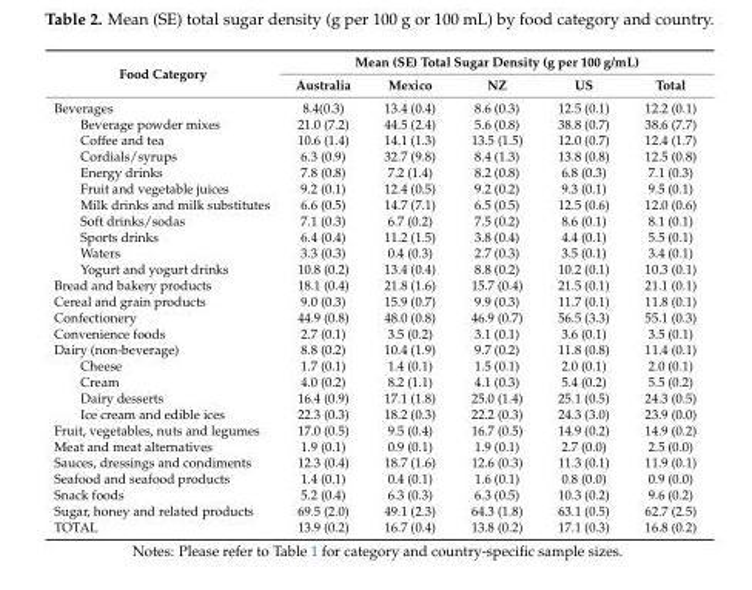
<table><thead><tr><td rowspan="2">Food Category</td><td colspan="5">Mean (SE) Total Sugar Density (g per 100 g/mL)</td></tr><tr><td>Australia</td><td>Mexico</td><td>NZ</td><td>US</td><td>Total</td></tr></thead><tbody><tr><td>Beverages</td><td>8.4(0.3)</td><td>13.4 (0.4)</td><td>8.6 (0.3)</td><td>12.5 (0.1)</td><td>12.2 (0.1)</td></tr><tr><td>Beverage powder mixes</td><td>21.0 (7.2)</td><td>44.5 (2.4)</td><td>5.6 (0.8)</td><td>38.8 (0.7)</td><td>38.6 (7.7)</td></tr><tr><td>Coffee and tea</td><td>10.6 (1.4)</td><td>14.1 (1.3)</td><td>13.5 (1.5)</td><td>12.0 (0.7)</td><td>12.4 (1.7)</td></tr><tr><td>Cordials/syrups</td><td>6.3 (0.9)</td><td>32.7 (9.8)</td><td>8.4 (1.3)</td><td>13.8 (0.8)</td><td>12.5 (0.8)</td></tr><tr><td>Energy drinks</td><td>7.8 (0.8)</td><td>7.2 (1.4)</td><td>8.2 (0.8)</td><td>6.8 (0.3)</td><td>7.1 (0.3)</td></tr><tr><td>Fruit and vegetable juices</td><td>9.2 (0.1)</td><td>12.4 (0.5)</td><td>9.2 (0.2)</td><td>9.3 (0.1)</td><td>9.5 (0.1)</td></tr><tr><td>Milk drinks and milk substitutes</td><td>6.6 (0.5)</td><td>14.7 (7.1)</td><td>6.5 (0.5)</td><td>12.5 (0.6)</td><td>12.0 (0.6)</td></tr><tr><td>Soft drinks/sodas</td><td>7.1 (0.3)</td><td>6.7 (0.2)</td><td>7.5 (0.2)</td><td>8.6 (0.1)</td><td>8.1 (0.1)</td></tr><tr><td>Sports drinks</td><td>6.4 (0.4)</td><td>11.2 (1.5)</td><td>3.8 (0.4)</td><td>4.4 (0.1)</td><td>5.5 (0.1)</td></tr><tr><td>Waters</td><td>3.3 (0.3)</td><td>0.4 (0.3)</td><td>2.7 (0.3)</td><td>3.5 (0.1)</td><td>3.4 (0.1)</td></tr><tr><td>Yogurt and yogurt drinks</td><td>10.8 (0.2)</td><td>13.4 (0.4)</td><td>8.8 (0.2)</td><td>10.2 (0.1)</td><td>10.3 (0.1)</td></tr><tr><td>Bread and bakery products</td><td>18.1 (0.4)</td><td>21.8 (1.6)</td><td>15.7 (0.4)</td><td>21.5 (0.1)</td><td>21.1 (0.1)</td></tr><tr><td>Cereal and grain products</td><td>9.0 (0.3)</td><td>15.9 (0.7)</td><td>9.9 (0.3)</td><td>11.7 (0.1)</td><td>11.8 (0.1)</td></tr><tr><td>Confectionery</td><td>44.9 (0.8)</td><td>48.0 (0.8)</td><td>46.9 (0.7)</td><td>56.5 (3.3)</td><td>55.1 (0.3)</td></tr><tr><td>Convenience foods</td><td>2.7 (0.1)</td><td>3.5 (0.2)</td><td>3.1 (0.1)</td><td>3.6 (0.1)</td><td>3.5 (0.1)</td></tr><tr><td>Dairy (non-beverage)</td><td>8.8 (0.2)</td><td>10.4 (1.9)</td><td>9.7 (0.2)</td><td>11.8 (0.8)</td><td>11.4 (0.1)</td></tr><tr><td>Cheese</td><td>1.7 (0.1)</td><td>1.4 (0.1)</td><td>1.5 (0.1)</td><td>2.0 (0.1)</td><td>2.0 (0.1)</td></tr><tr><td>Cream</td><td>4.0 (0.2)</td><td>8.2 (1.1)</td><td>4.1 (0.3)</td><td>5.4 (0.2)</td><td>5.5 (0.2)</td></tr><tr><td>Dairy desserts</td><td>16.4 (0.9)</td><td>17.1 (1.8)</td><td>25.0 (1.4)</td><td>25.1 (0.5)</td><td>24.3 (0.5)</td></tr><tr><td>Ice cream and edible ices</td><td>22.3 (0.3)</td><td>18.2 (0.3)</td><td>22.2 (0.3)</td><td>24.3 (3.0)</td><td>23.9 (0.0)</td></tr><tr><td>Fruit, vegetables, nuts and legumes</td><td>17.0 (0.5)</td><td>9.5 (0.4)</td><td>16.7 (0.5)</td><td>14.9 (0.2)</td><td>14.9 (0.2)</td></tr><tr><td>Meat and meat alternatives</td><td>1.9 (0.1)</td><td>0.9 (0.1)</td><td>1.9 (0.1)</td><td>2.7 (0.0)</td><td>2.5 (0.0)</td></tr><tr><td>Sauces, dressings and condiments</td><td>12.3 (0.4)</td><td>18.7 (1.6)</td><td>12.6 (0.3)</td><td>11.3 (0.1)</td><td>11.9 (0.1)</td></tr><tr><td>Seafood and seafood products</td><td>1.4 (0.1)</td><td>0.4 (0.1)</td><td>1.6 (0.1)</td><td>0.8 (0.0)</td><td>0.9 (0.0)</td></tr><tr><td>Snack foods</td><td>5.2 (0.4)</td><td>6.3 (0.3)</td><td>6.3 (0.5)</td><td>10.3 (0.2)</td><td>9.6 (0.2)</td></tr><tr><td>Sugar, honey and related products</td><td>69.5 (2.0)</td><td>49.1 (2.3)</td><td>64.3 (1.8)</td><td>63.1 (0.5)</td><td>62.7 (2.5)</td></tr><tr><td>TOTAL</td><td>13.9 (0.2)</td><td>16.7 (0.4)</td><td>13.8 (0.2)</td><td>17.1 (0.3)</td><td>16.8 (0.2)</td></tr></tbody></table>